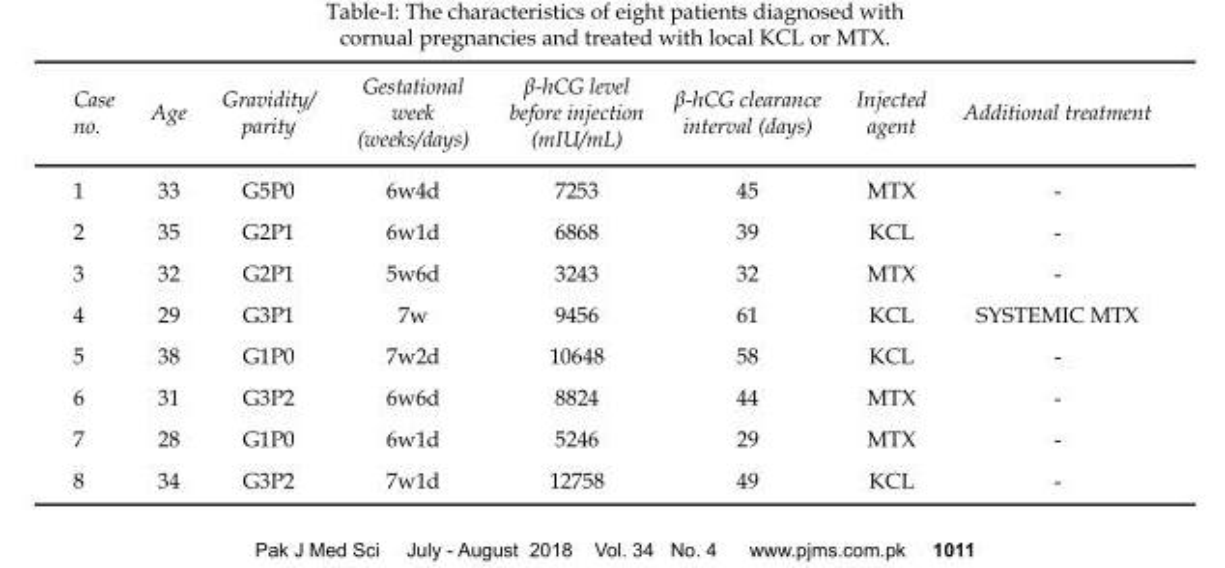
<table><thead><tr><td>Case no.</td><td>Age</td><td>Gravidity/ parity</td><td>Gestational week (weeks/days)</td><td>β-hCG level before injection (mIU/mL)</td><td>β-hCG clearance interval (days)</td><td>Injected agent</td><td>Additional treatment</td></tr></thead><tbody><tr><td>1</td><td>33</td><td>G5P0</td><td>6w4d</td><td>7253</td><td>45</td><td>MTX</td><td>-</td></tr><tr><td>2</td><td>35</td><td>G2P1</td><td>6w1d</td><td>6868</td><td>39</td><td>KCL</td><td>-</td></tr><tr><td>3</td><td>32</td><td>G2P1</td><td>5w6d</td><td>3243</td><td>32</td><td>MTX</td><td>-</td></tr><tr><td>4</td><td>29</td><td>G3P1</td><td>7w</td><td>9456</td><td>61</td><td>KCL</td><td>SYSTEMIC MTX</td></tr><tr><td>5</td><td>38</td><td>G1P0</td><td>7w2d</td><td>10648</td><td>58</td><td>KCL</td><td>-</td></tr><tr><td>6</td><td>31</td><td>G3P2</td><td>6w6d</td><td>8824</td><td>44</td><td>MTX</td><td>-</td></tr><tr><td>7</td><td>28</td><td>G1P0</td><td>6w1d</td><td>5246</td><td>29</td><td>MTX</td><td>-</td></tr><tr><td>8</td><td>34</td><td>G3P2</td><td>7w1d</td><td>12758</td><td>49</td><td>KCL</td><td>-</td></tr></tbody></table>